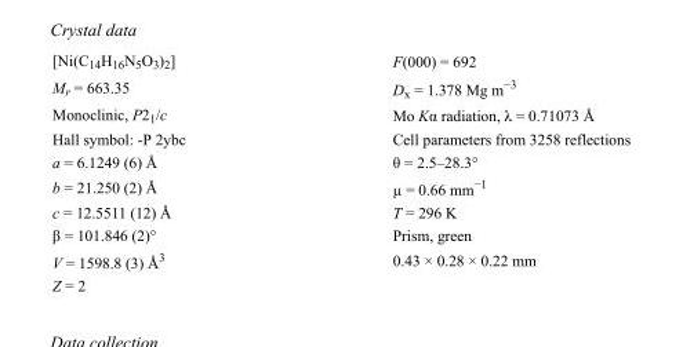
<table><tbody><tr><td>[Ni(C<sub>14</sub>H<sub>16</sub>N<sub>5</sub>O<sub>3</sub>)<sub>2</sub>]</td><td>F(000) = 692</td></tr><tr><td>M<sub>r</sub> = 663.35</td><td>D<sub>x</sub> = 1.378 Mg m<sup>−3</sup></td></tr><tr><td>Monoclinic, P2<sub>1</sub>/c</td><td>Mo Kα radiation, λ = 0.71073 Å</td></tr><tr><td>Hall symbol: -P 2ybc</td><td>Cell parameters from 3258 reflections</td></tr><tr><td>a = 6.1249 (6) Å</td><td>θ = 2.5–28.3°</td></tr><tr><td>b = 21.250 (2) Å</td><td>µ = 0.66 mm<sup>−1</sup></td></tr><tr><td>c = 12.5511 (12) Å</td><td>T = 296 K</td></tr><tr><td>β = 101.846 (2)°</td><td>Prism, green</td></tr><tr><td>V = 1598.8 (3) Å<sup>3</sup></td><td>0.43 × 0.28 × 0.22 mm</td></tr><tr><td>Z = 2</td><td></td></tr></tbody></table>